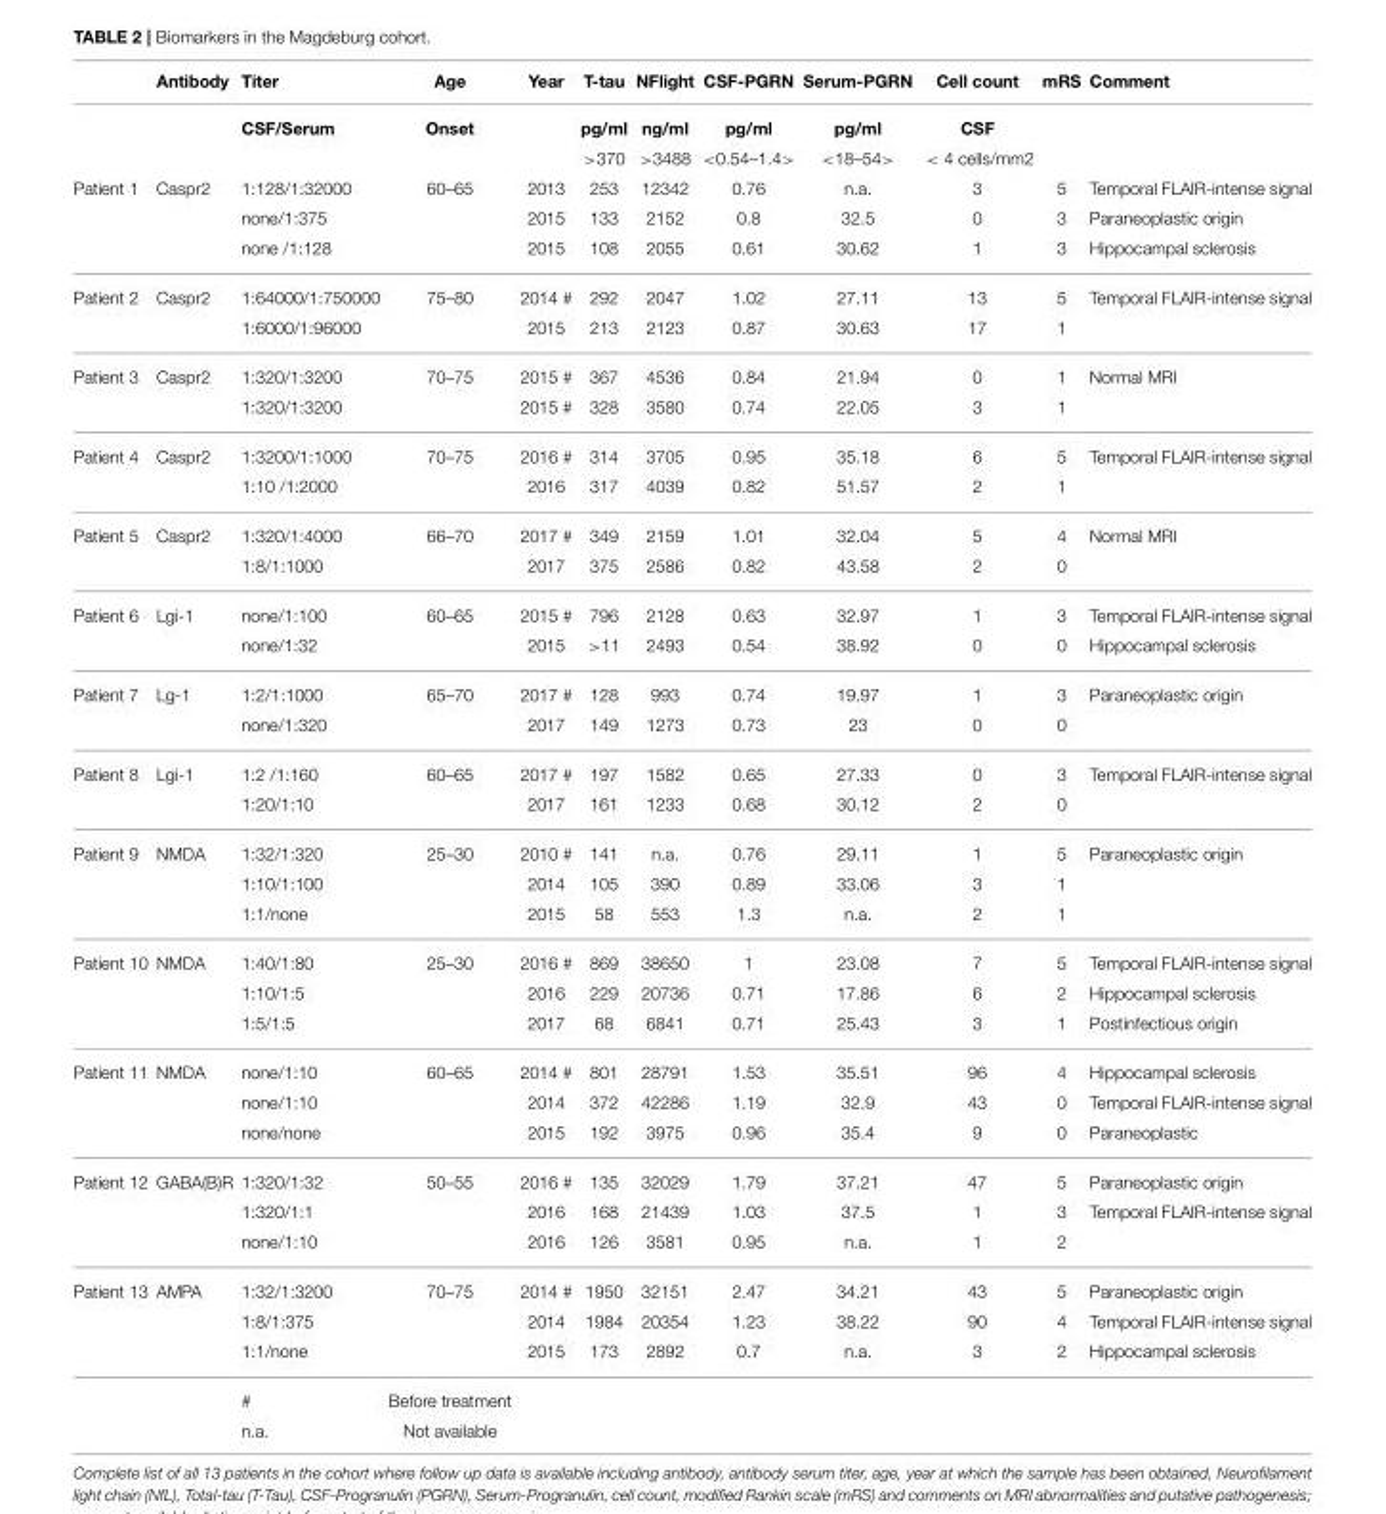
<table><thead><tr><td></td><td>Antibody</td><td>Titer</td><td>Age</td><td>Year</td><td>T-tau</td><td>NFlight</td><td>CSF-PGRN</td><td>Serum-PGRN</td><td>Cell count</td><td>mRS</td><td>Comment</td></tr></thead><tbody><tr><td></td><td></td><td>CSF/Serum</td><td>Onset</td><td></td><td>pg/ml</td><td>ng/ml</td><td>pg/ml</td><td>pg/ml</td><td>CSF</td><td></td><td></td></tr><tr><td></td><td></td><td></td><td></td><td></td><td>&gt;370</td><td>&gt;3488</td><td>&lt;0.54–1.4&gt;</td><td>&lt;18–54&gt;</td><td>&lt; 4 cells/mm2</td><td></td><td></td></tr><tr><td rowspan="3">Patient 1</td><td>Caspr2</td><td>1:128/1:32000</td><td>60–65</td><td>2013</td><td>253</td><td>12342</td><td>0.76</td><td>n.a.</td><td>3</td><td>5</td><td>Temporal FLAIR-intense signal</td></tr><tr><td></td><td>none/1:375</td><td></td><td>2015</td><td>133</td><td>2152</td><td>0.8</td><td>32.5</td><td>0</td><td>3</td><td>Paraneoplastic origin</td></tr><tr><td></td><td>none /1:128</td><td></td><td>2015</td><td>108</td><td>2055</td><td>0.61</td><td>30.62</td><td>1</td><td>3</td><td>Hippocampal sclerosis</td></tr><tr><td rowspan="2">Patient 2</td><td>Caspr2</td><td>1:64000/1:750000</td><td>75–80</td><td>2014 #</td><td>292</td><td>2047</td><td>1.02</td><td>27.11</td><td>13</td><td>5</td><td>Temporal FLAIR-intense signal</td></tr><tr><td></td><td>1:6000/1:96000</td><td></td><td>2015</td><td>213</td><td>2123</td><td>0.87</td><td>30.63</td><td>17</td><td>1</td><td></td></tr><tr><td rowspan="2">Patient 3</td><td>Caspr2</td><td>1:320/1:3200</td><td>70–75</td><td>2015 #</td><td>367</td><td>4536</td><td>0.84</td><td>21.94</td><td>0</td><td>1</td><td>Normal MRI</td></tr><tr><td></td><td>1:320/1:3200</td><td></td><td>2015 #</td><td>328</td><td>3580</td><td>0.74</td><td>22.05</td><td>3</td><td>1</td><td></td></tr><tr><td rowspan="2">Patient 4</td><td>Caspr2</td><td>1:3200/1:1000</td><td>70–75</td><td>2016 #</td><td>314</td><td>3705</td><td>0.95</td><td>35.18</td><td>6</td><td>5</td><td>Temporal FLAIR-intense signal</td></tr><tr><td></td><td>1:10 /1:2000</td><td></td><td>2016</td><td>317</td><td>4039</td><td>0.82</td><td>51.57</td><td>2</td><td>1</td><td></td></tr><tr><td rowspan="2">Patient 5</td><td>Caspr2</td><td>1:320/1:4000</td><td>66–70</td><td>2017 #</td><td>349</td><td>2159</td><td>1.01</td><td>32.04</td><td>5</td><td>4</td><td>Normal MRI</td></tr><tr><td></td><td>1:8/1:1000</td><td></td><td>2017</td><td>375</td><td>2586</td><td>0.82</td><td>43.58</td><td>2</td><td>0</td><td></td></tr><tr><td rowspan="2">Patient 6</td><td>Lgi-1</td><td>none/1:100</td><td>60–65</td><td>2015 #</td><td>796</td><td>2128</td><td>0.63</td><td>32.97</td><td>1</td><td>3</td><td>Temporal FLAIR-intense signal</td></tr><tr><td></td><td>none/1:32</td><td></td><td>2015</td><td>&gt;11</td><td>2493</td><td>0.54</td><td>38.92</td><td>0</td><td>0</td><td>Hippocampal sclerosis</td></tr><tr><td rowspan="2">Patient 7</td><td>Lg-1</td><td>1:2/1:1000</td><td>65–70</td><td>2017 #</td><td>128</td><td>993</td><td>0.74</td><td>19.97</td><td>1</td><td>3</td><td>Paraneoplastic origin</td></tr><tr><td></td><td>none/1:320</td><td></td><td>2017</td><td>149</td><td>1273</td><td>0.73</td><td>23</td><td>0</td><td>0</td><td></td></tr><tr><td rowspan="2">Patient 8</td><td>Lgi-1</td><td>1:2 /1:160</td><td>60–65</td><td>2017 #</td><td>197</td><td>1582</td><td>0.65</td><td>27.33</td><td>0</td><td>3</td><td>Temporal FLAIR-intense signal</td></tr><tr><td></td><td>1:20/1:10</td><td></td><td>2017</td><td>161</td><td>1233</td><td>0.68</td><td>30.12</td><td>2</td><td>0</td><td></td></tr><tr><td rowspan="3">Patient 9</td><td>NMDA</td><td>1:32/1:320</td><td>25–30</td><td>2010 #</td><td>141</td><td>n.a.</td><td>0.76</td><td>29.11</td><td>1</td><td>5</td><td>Paraneoplastic origin</td></tr><tr><td></td><td>1:10/1:100</td><td></td><td>2014</td><td>105</td><td>390</td><td>0.89</td><td>33.06</td><td>3</td><td>1</td><td></td></tr><tr><td></td><td>1:1/none</td><td></td><td>2015</td><td>58</td><td>553</td><td>1.3</td><td>n.a.</td><td>2</td><td>1</td><td></td></tr><tr><td rowspan="3">Patient 10</td><td>NMDA</td><td>1:40/1:80</td><td>25–30</td><td>2016 #</td><td>869</td><td>38650</td><td>1</td><td>23.08</td><td>7</td><td>5</td><td>Temporal FLAIR-intense signal</td></tr><tr><td></td><td>1:10/1:5</td><td></td><td>2016</td><td>229</td><td>20736</td><td>0.71</td><td>17.86</td><td>6</td><td>2</td><td>Hippocampal sclerosis</td></tr><tr><td></td><td>1:5/1:5</td><td></td><td>2017</td><td>68</td><td>6841</td><td>0.71</td><td>25.43</td><td>3</td><td>1</td><td>Postinfectious origin</td></tr><tr><td rowspan="3">Patient 11</td><td>NMDA</td><td>none/1:10</td><td>60–65</td><td>2014 #</td><td>801</td><td>28791</td><td>1.53</td><td>35.51</td><td>96</td><td>4</td><td>Hippocampal sclerosis</td></tr><tr><td></td><td>none/1:10</td><td></td><td>2014</td><td>372</td><td>42286</td><td>1.19</td><td>32.9</td><td>43</td><td>0</td><td>Temporal FLAIR-intense signal</td></tr><tr><td></td><td>none/none</td><td></td><td>2015</td><td>192</td><td>3975</td><td>0.96</td><td>35.4</td><td>9</td><td>0</td><td>Paraneoplastic</td></tr><tr><td rowspan="3">Patient 12</td><td>GABA(B)R</td><td>1:320/1:32</td><td>50–55</td><td>2016 #</td><td>135</td><td>32029</td><td>1.79</td><td>37.21</td><td>47</td><td>5</td><td>Paraneoplastic origin</td></tr><tr><td></td><td>1:320/1:1</td><td></td><td>2016</td><td>168</td><td>21439</td><td>1.03</td><td>37.5</td><td>1</td><td>3</td><td>Temporal FLAIR-intense signal</td></tr><tr><td></td><td>none/1:10</td><td></td><td>2016</td><td>126</td><td>3581</td><td>0.95</td><td>n.a.</td><td>1</td><td>2</td><td></td></tr><tr><td rowspan="5">Patient 13</td><td>AMPA</td><td>1:32/1:3200</td><td>70–75</td><td>2014 #</td><td>1950</td><td>32151</td><td>2.47</td><td>34.21</td><td>43</td><td>5</td><td>Paraneoplastic origin</td></tr><tr><td></td><td>1:8/1:375</td><td></td><td>2014</td><td>1984</td><td>20354</td><td>1.23</td><td>38.22</td><td>90</td><td>4</td><td>Temporal FLAIR-intense signal</td></tr><tr><td></td><td>1:1/none</td><td></td><td>2015</td><td>173</td><td>2892</td><td>0.7</td><td>n.a.</td><td>3</td><td>2</td><td>Hippocampal sclerosis</td></tr><tr><td></td><td>#</td><td>Before treatment</td><td></td><td></td><td></td><td></td><td></td><td></td><td></td><td></td></tr><tr><td></td><td>n.a.</td><td>Not available</td><td></td><td></td><td></td><td></td><td></td><td></td><td></td><td></td></tr></tbody></table>